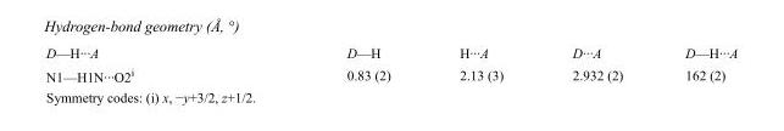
<table><tbody><tr><td>D—H···A</td><td>D—H</td><td>H···A</td><td>D···A</td><td>D—H···A</td></tr><tr><td>N1—H1N···O2<sup>i</sup></td><td>0.83 (2)</td><td>2.13 (3)</td><td>2.932 (2)</td><td>162 (2)</td></tr></tbody></table>